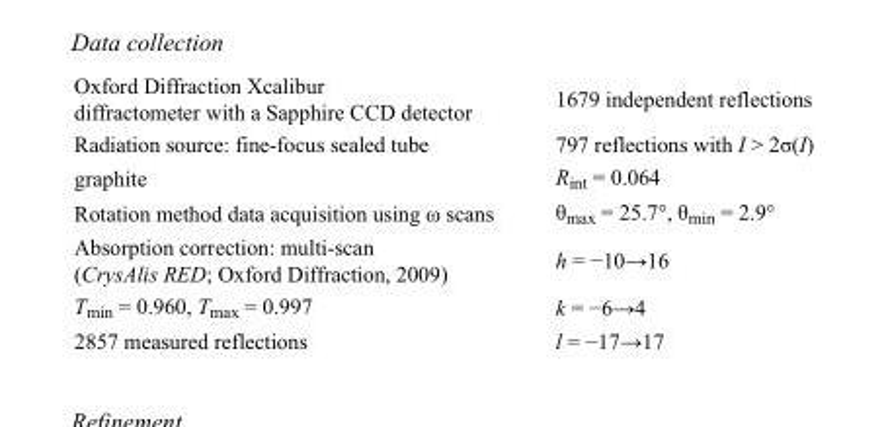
<table><tbody><tr><td>Oxford Diffraction Xcalibur diffractometer with a Sapphire CCD detector</td><td>1679 independent reflections</td></tr><tr><td>Radiation source: fine-focus sealed tube</td><td>797 reflections with I &gt; 2σ(I)</td></tr><tr><td>graphite</td><td>R<sub>int</sub> = 0.064</td></tr><tr><td>Rotation method data acquisition using ω scans</td><td>θ<sub>max</sub> = 25.7°, θ<sub>min</sub> = 2.9°</td></tr><tr><td>Absorption correction: multi-scan (CrysAlis RED; Oxford Diffraction, 2009)</td><td>h = −10→16</td></tr><tr><td>T<sub>min</sub> = 0.960, T<sub>max</sub> = 0.997</td><td>k = −6→4</td></tr><tr><td>2857 measured reflections</td><td>l = −17→17</td></tr></tbody></table>